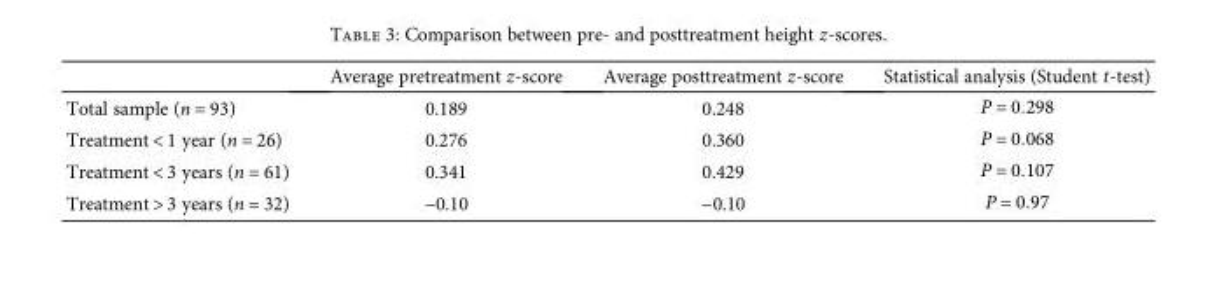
<table><thead><tr><td></td><td>Average pretreatment z-score</td><td>Average posttreatment z-score</td><td>Statistical analysis (Student t-test)</td></tr></thead><tbody><tr><td>Total sample (n = 93)</td><td>0.189</td><td>0.248</td><td>P = 0 298</td></tr><tr><td>Treatment &lt; 1 year (n = 26)</td><td>0.276</td><td>0.360</td><td>P = 0 068</td></tr><tr><td>Treatment &lt; 3 years (n = 61)</td><td>0.341</td><td>0.429</td><td>P = 0 107</td></tr><tr><td>Treatment &gt; 3 years (n = 32)</td><td>−0.10</td><td>−0.10</td><td>P = 0 97</td></tr></tbody></table>